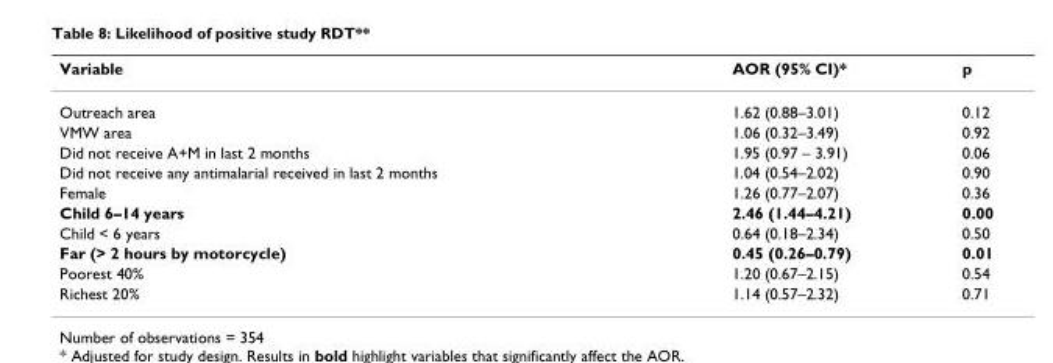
<table><thead><tr><td>Variable</td><td>AOR (95% CI)*</td><td>p</td></tr></thead><tbody><tr><td>Outreach area</td><td>1.62 (0.88–3.01)</td><td>0.12</td></tr><tr><td>VMW area</td><td>1.06 (0.32–3.49)</td><td>0.92</td></tr><tr><td>Did not receive A+M in last 2 months</td><td>1.95 (0.97 – 3.91)</td><td>0.06</td></tr><tr><td>Did not receive any antimalarial received in last 2 months</td><td>1.04 (0.54–2.02)</td><td>0.90</td></tr><tr><td>Female</td><td>1.26 (0.77–2.07)</td><td>0.36</td></tr><tr><td>Child 6–14 years</td><td>2.46 (1.44–4.21)</td><td>0.00</td></tr><tr><td>Child &lt; 6 years</td><td>0.64 (0.18–2.34)</td><td>0.50</td></tr><tr><td>Far (&gt; 2 hours by motorcycle)</td><td>0.45 (0.26–0.79)</td><td>0.01</td></tr><tr><td>Poorest 40%</td><td>1.20 (0.67–2.15)</td><td>0.54</td></tr><tr><td>Richest 20%</td><td>1.14 (0.57–2.32)</td><td>0.71</td></tr></tbody></table>